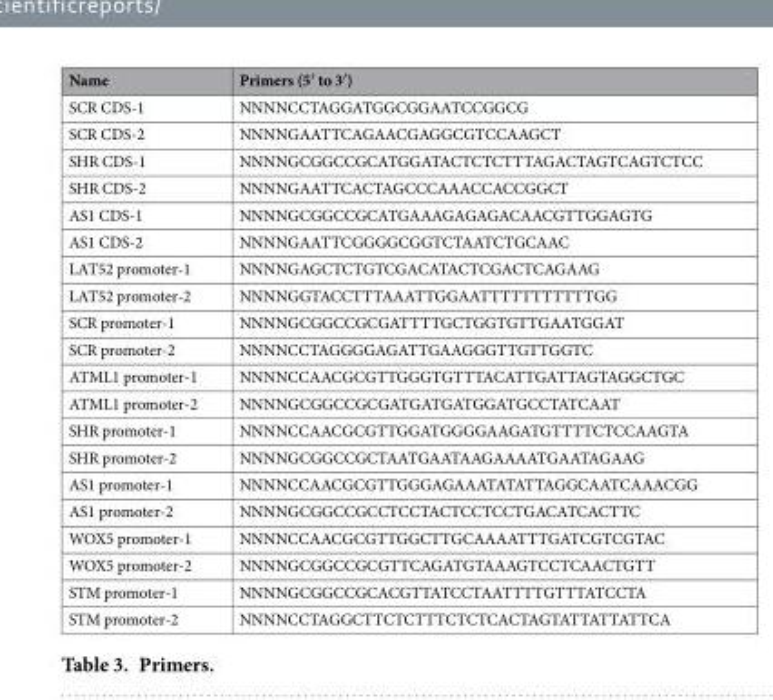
<table><thead><tr><td>Name</td><td>Primers (5′ to 3′ )</td></tr></thead><tbody><tr><td>SCR CDS-1</td><td>NNNNCCTAGGATGGCGGAATCCGGCG</td></tr><tr><td>SCR CDS-2</td><td>NNNNGAATTCAGAACGAGGCGTCCAAGCT</td></tr><tr><td>SHR CDS-1</td><td>NNNNGCGGCCGCATGGATACTCTCTTTAGACTAGTCAGTCTCC</td></tr><tr><td>SHR CDS-2</td><td>NNNNGAATTCACTAGCCCAAACCACCGGCT</td></tr><tr><td>AS1 CDS-1</td><td>NNNNGCGGCCGCATGAAAGAGAGACAACGTTGGAGTG</td></tr><tr><td>AS1 CDS-2</td><td>NNNNGAATTCGGGGCGGTCTAATCTGCAAC</td></tr><tr><td>LAT52 promoter-1</td><td>NNNNGAGCTCTGTCGACATACTCGACTCAGAAG</td></tr><tr><td>LAT52 promoter-2</td><td>NNNNGGTACCTTTAAATTGGAATTTTTTTTTTTGG</td></tr><tr><td>SCR promoter-1</td><td>NNNNGCGGCCGCGATTTTGCTGGTGTTGAATGGAT</td></tr><tr><td>SCR promoter-2</td><td>NNNNCCTAGGGGAGATTGAAGGGTTGTTGGTC</td></tr><tr><td>ATML1 promoter-1</td><td>NNNNCCAACGCGTTGGGTGTTTACATTGATTAGTAGGCTGC</td></tr><tr><td>ATML1 promoter-2</td><td>NNNNGCGGCCGCGATGATGATGGATGCCTATCAAT</td></tr><tr><td>SHR promoter-1</td><td>NNNNCCAACGCGTTGGATGGGGAAGATGTTTTCTCCAAGTA</td></tr><tr><td>SHR promoter-2</td><td>NNNNGCGGCCGCTAATGAATAAGAAAATGAATAGAAG</td></tr><tr><td>AS1 promoter-1</td><td>NNNNCCAACGCGTTGGGAGAAATATATTAGGCAATCAAACGG</td></tr><tr><td>AS1 promoter-2</td><td>NNNNGCGGCCGCCTCCTACTCCTCCTGACATCACTTC</td></tr><tr><td>WOX5 promoter-1</td><td>NNNNCCAACGCGTTGGCTTGCAAAATTTGATCGTCGTAC</td></tr><tr><td>WOX5 promoter-2</td><td>NNNNGCGGCCGCGTTCAGATGTAAAGTCCTCAACTGTT</td></tr><tr><td>STM promoter-1</td><td>NNNNGCGGCCGCACGTTATCCTAATTTTGTTTATCCTA</td></tr><tr><td>STM promoter-2</td><td>NNNNCCTAGGCTTCTCTTTCTCTCACTAGTATTATTATTCA</td></tr></tbody></table>